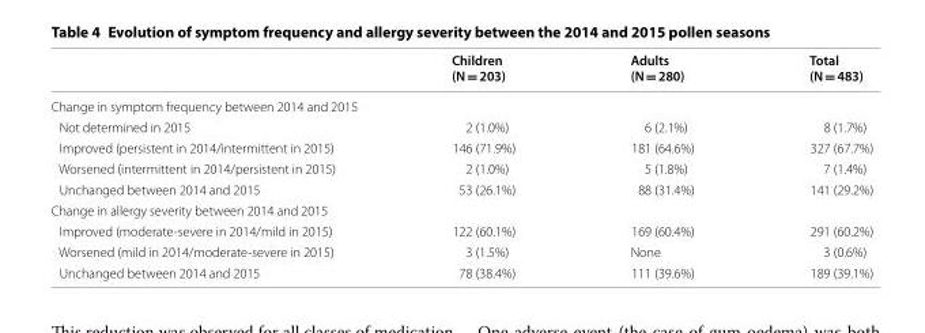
<table><thead><tr><td></td><td>Children (N = 203)</td><td>Adults (N = 280)</td><td>Total (N = 483)</td></tr></thead><tbody><tr><td colspan="4">Change in symptom frequency between 2014 and 2015</td></tr><tr><td>Not determined in 2015</td><td>2 (1.0%)</td><td>6 (2.1%)</td><td>8 (1.7%)</td></tr><tr><td>Improved (persistent in 2014/intermittent in 2015)</td><td>146 (71.9%)</td><td>181 (64.6%)</td><td>327 (67.7%)</td></tr><tr><td>Worsened (intermittent in 2014/persistent in 2015)</td><td>2 (1.0%)</td><td>5 (1.8%)</td><td>7 (1.4%)</td></tr><tr><td>Unchanged between 2014 and 2015</td><td>53 (26.1%)</td><td>88 (31.4%)</td><td>141 (29.2%)</td></tr><tr><td colspan="4">Change in allergy severity between 2014 and 2015</td></tr><tr><td>Improved (moderate‑severe in 2014/mild in 2015)</td><td>122 (60.1%)</td><td>169 (60.4%)</td><td>291 (60.2%)</td></tr><tr><td>Worsened (mild in 2014/moderate‑severe in 2015)</td><td>3 (1.5%)</td><td>None</td><td>3 (0.6%)</td></tr><tr><td>Unchanged between 2014 and 2015</td><td>78 (38.4%)</td><td>111 (39.6%)</td><td>189 (39.1%)</td></tr></tbody></table>